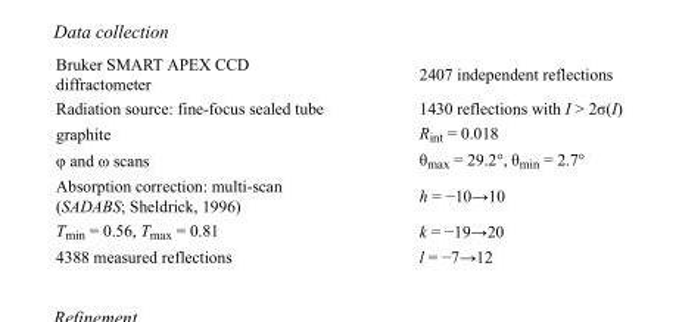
<table><tbody><tr><td>Bruker SMART APEX CCD diffractometer</td><td>2407 independent reflections</td></tr><tr><td>Radiation source: fine-focus sealed tube</td><td>1430 reflections with I &gt; 2σ(I)</td></tr><tr><td>graphite</td><td>R<sub>int</sub> = 0.018</td></tr><tr><td>φ and ω scans</td><td>θ<sub>max</sub> = 29.2°, θ<sub>min</sub> = 2.7°</td></tr><tr><td>Absorption correction: multi-scan (SADABS; Sheldrick, 1996)</td><td>h = −10→10</td></tr><tr><td>T<sub>min</sub> = 0.56, T<sub>max</sub> = 0.81</td><td>k = −19→20</td></tr><tr><td>4388 measured reflections</td><td>l = −7→12</td></tr></tbody></table>